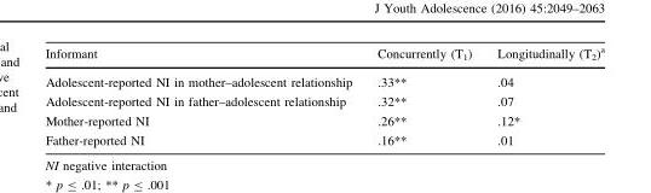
<table><thead><tr><td>Informant</td><td>Concurrently (T<sub>1</sub>)</td><td>Longitudinally (T<sub>2</sub>)<sup>a</sup></td></tr></thead><tbody><tr><td>Adolescent-reported NI in mother–adolescent relationship</td><td>.33**</td><td>.04</td></tr><tr><td>Adolescent-reported NI in father–adolescent relationship</td><td>.32**</td><td>.07</td></tr><tr><td>Mother-reported NI</td><td>.26**</td><td>.12*</td></tr><tr><td>Father-reported NI</td><td>.16**</td><td>.01</td></tr></tbody></table>